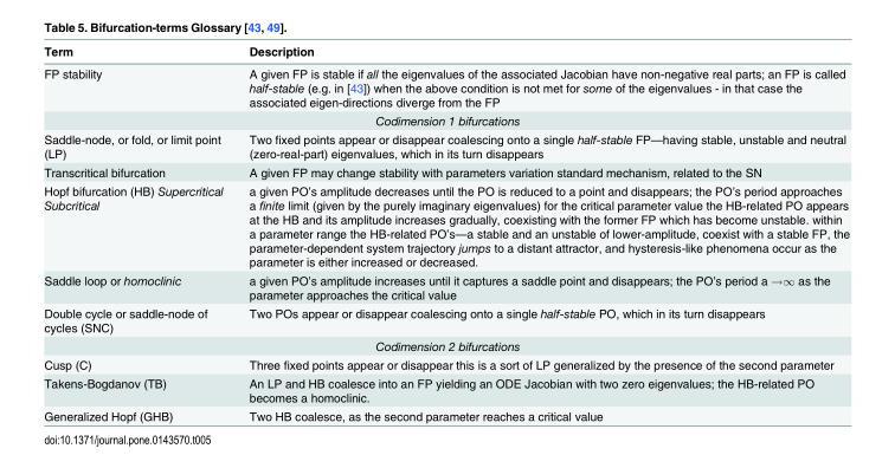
<table><thead><tr><td>Term</td><td>Description</td></tr></thead><tbody><tr><td>FP stability</td><td>A given FP is stable if all the eigenvalues of the associated Jacobian have non-negative real parts; an FP is called half-stable (e.g. in [43]) when the above condition is not met for some of the eigenvalues - in that case the associated eigen-directions diverge from the FP</td></tr><tr><td colspan="2">Codimension 1 bifurcations</td></tr><tr><td>Saddle-node, or fold, or limit point (LP)</td><td>Two fixed points appear or disappear coalescing onto a single half-stable FP—having stable, unstable and neutral (zero-real-part) eigenvalues, which in its turn disappears</td></tr><tr><td>Transcritical bifurcation</td><td>A given FP may change stability with parameters variation standard mechanism, related to the SN</td></tr><tr><td>Hopf bifurcation (HB) Supercritical Subcritical</td><td>a given PO’s amplitude decreases until the PO is reduced to a point and disappears; the PO’s period approaches a finite limit (given by the purely imaginary eigenvalues) for the critical parameter value the HB-related PO appears at the HB and its amplitude increases gradually, coexisting with the former FP which has become unstable. within a parameter range the HB-related PO’s—a stable and an unstable of lower-amplitude, coexist with a stable FP, the parameter-dependent system trajectory jumps to a distant attractor, and hysteresis-like phenomena occur as the parameter is either increased or decreased.</td></tr><tr><td>Saddle loop or homoclinic</td><td>a given PO’s amplitude increases until it captures a saddle point and disappears; the PO’s period a →∞ as the parameter approaches the critical value</td></tr><tr><td>Double cycle or saddle-node of cycles (SNC)</td><td>Two POs appear or disappear coalescing onto a single half-stable PO, which in its turn disappears</td></tr><tr><td colspan="2">Codimension 2 bifurcations</td></tr><tr><td>Cusp (C)</td><td>Three fixed points appear or disappear this is a sort of LP generalized by the presence of the second parameter</td></tr><tr><td>Takens-Bogdanov (TB)</td><td>An LP and HB coalesce into an FP yielding an ODE Jacobian with two zero eigenvalues; the HB-related PO becomes a homoclinic.</td></tr><tr><td>Generalized Hopf (GHB)</td><td>Two HB coalesce, as the second parameter reaches a critical value</td></tr></tbody></table>